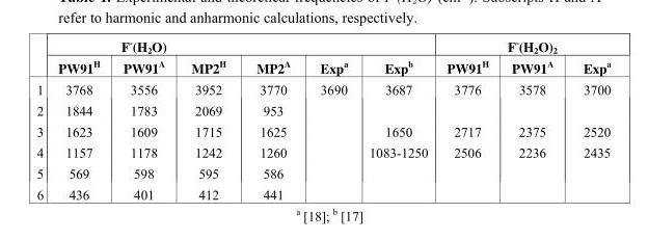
<table><thead><tr><td rowspan="2"></td><td colspan="6">F<sup>-</sup>(H<sub>2</sub>O)</td><td colspan="3">F<sup>-</sup>(H<sub>2</sub>O)<sub>2</sub></td></tr><tr><td>PW91<sup>H</sup></td><td>PW91<sup>A</sup></td><td>MP2<sup>H</sup></td><td>MP2<sup>A</sup></td><td>Exp<sup>a</sup></td><td>Exp<sup>b</sup></td><td>PW91<sup>H</sup></td><td>PW91<sup>A</sup></td><td>Exp<sup>a</sup></td></tr></thead><tbody><tr><td>1</td><td>3768</td><td>3556</td><td>3952</td><td>3770</td><td>3690</td><td>3687</td><td>3776</td><td>3578</td><td>3700</td></tr><tr><td>2</td><td>1844</td><td>1783</td><td>2069</td><td>953</td><td></td><td></td><td></td><td></td><td></td></tr><tr><td>3</td><td>1623</td><td>1609</td><td>1715</td><td>1625</td><td></td><td>1650</td><td>2717</td><td>2375</td><td>2520</td></tr><tr><td>4</td><td>1157</td><td>1178</td><td>1242</td><td>1260</td><td></td><td>1083-1250</td><td>2506</td><td>2236</td><td>2435</td></tr><tr><td>5</td><td>569</td><td>598</td><td>595</td><td>586</td><td></td><td></td><td></td><td></td><td></td></tr><tr><td>6</td><td>436</td><td>401</td><td>412</td><td>441</td><td></td><td></td><td></td><td></td><td></td></tr></tbody></table>